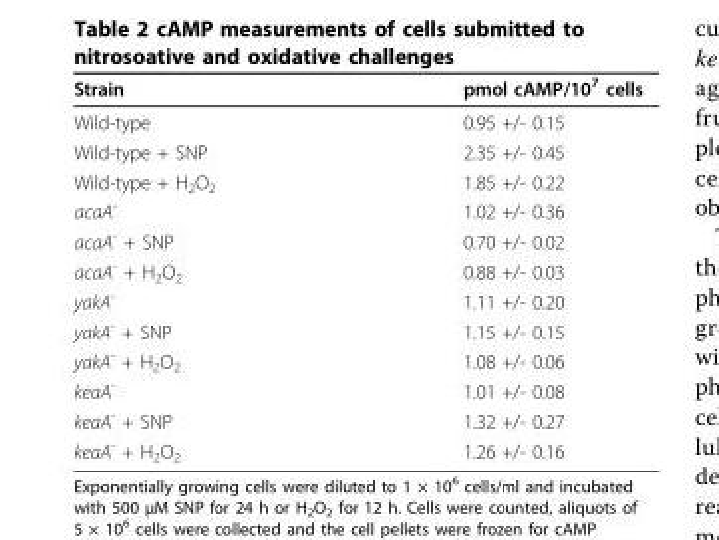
<table><thead><tr><td>Strain</td><td>pmol cAMP/10<sup>7</sup> cells</td></tr></thead><tbody><tr><td>Wild-type</td><td>0.95 +/- 0.15</td></tr><tr><td>Wild-type + SNP</td><td>2.35 +/- 0.45</td></tr><tr><td>Wild-type + H<sub>2</sub>O<sub>2</sub></td><td>1.85 +/- 0.22</td></tr><tr><td>acaA<sup>-</sup></td><td>1.02 +/- 0.36</td></tr><tr><td>acaA<sup>-</sup> + SNP</td><td>0.70 +/- 0.02</td></tr><tr><td>acaA<sup>-</sup> + H<sub>2</sub>O<sub>2</sub></td><td>0.88 +/- 0.03</td></tr><tr><td>yakA<sup>-</sup></td><td>1.11 +/- 0.20</td></tr><tr><td>yakA<sup>-</sup> + SNP</td><td>1.15 +/- 0.15</td></tr><tr><td>yakA<sup>-</sup> + H<sub>2</sub>O<sub>2</sub></td><td>1.08 +/- 0.06</td></tr><tr><td>keaA<sup>-</sup></td><td>1.01 +/- 0.08</td></tr><tr><td>keaA<sup>-</sup> + SNP</td><td>1.32 +/- 0.27</td></tr><tr><td>keaA<sup>-</sup> + H<sub>2</sub>O<sub>2</sub></td><td>1.26 +/- 0.16</td></tr></tbody></table>